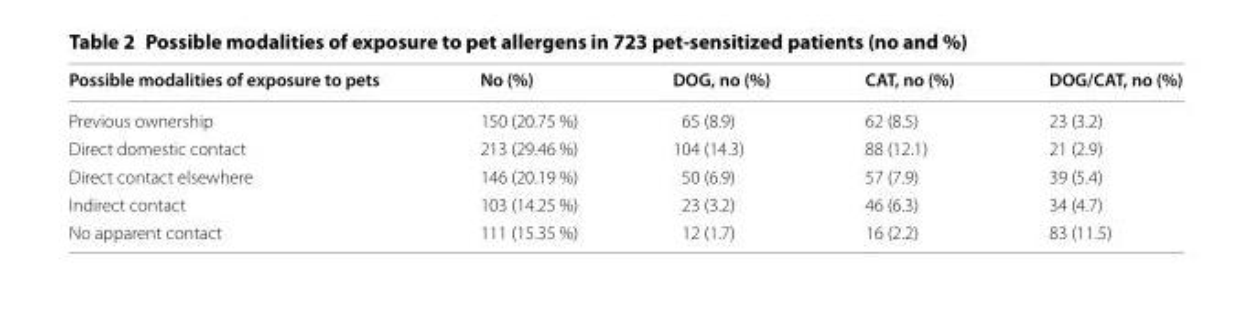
<table><thead><tr><td>Possible modalities of exposure to pets</td><td>No (%)</td><td>DOG, no (%)</td><td>CAT, no (%)</td><td>DOG/CAT, no (%)</td></tr></thead><tbody><tr><td>Previous ownership</td><td>150 (20.75 %)</td><td>65 (8.9)</td><td>62 (8.5)</td><td>23 (3.2)</td></tr><tr><td>Direct domestic contact</td><td>213 (29.46 %)</td><td>104 (14.3)</td><td>88 (12.1)</td><td>21 (2.9)</td></tr><tr><td>Direct contact elsewhere</td><td>146 (20.19 %)</td><td>50 (6.9)</td><td>57 (7.9)</td><td>39 (5.4)</td></tr><tr><td>Indirect contact</td><td>103 (14.25 %)</td><td>23 (3.2)</td><td>46 (6.3)</td><td>34 (4.7)</td></tr><tr><td>No apparent contact</td><td>111 (15.35 %)</td><td>12 (1.7)</td><td>16 (2.2)</td><td>83 (11.5)</td></tr></tbody></table>